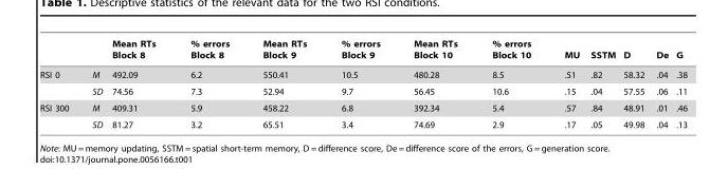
<table><thead><tr><td></td><td></td><td>Mean RTs Block 8</td><td>% errors Block 8</td><td>Mean RTs Block 9</td><td>% errors Block 9</td><td>Mean RTs Block 10</td><td>% errors Block 10</td><td>MU</td><td>SSTM</td><td>D</td><td>De</td><td>G</td></tr></thead><tbody><tr><td rowspan="2">RSI 0</td><td>M</td><td>492.09</td><td>6.2</td><td>550.41</td><td>10.5</td><td>480.28</td><td>8.5</td><td>.51</td><td>.82</td><td>58.32</td><td>.04</td><td>.38</td></tr><tr><td>SD</td><td>74.56</td><td>7.3</td><td>52.94</td><td>9.7</td><td>56.45</td><td>10.6</td><td>.15</td><td>.04</td><td>57.55</td><td>.06</td><td>.11</td></tr><tr><td rowspan="2">RSI 300</td><td>M</td><td>409.31</td><td>5.9</td><td>458.22</td><td>6.8</td><td>392.34</td><td>5.4</td><td>.57</td><td>.84</td><td>48.91</td><td>.01</td><td>.46</td></tr><tr><td>SD</td><td>81.27</td><td>3.2</td><td>65.51</td><td>3.4</td><td>74.69</td><td>2.9</td><td>.17</td><td>.05</td><td>49.98</td><td>.04</td><td>.13</td></tr></tbody></table>